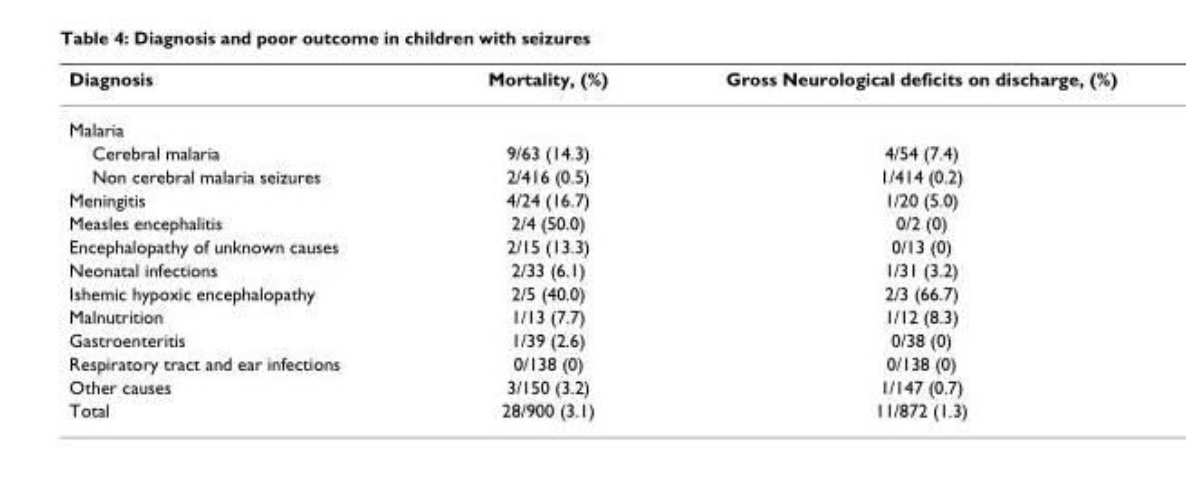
<table><thead><tr><td>Diagnosis</td><td>Mortality, (%)</td><td>Gross Neurological deficits on discharge, (%)</td></tr></thead><tbody><tr><td colspan="3">Malaria</td></tr><tr><td>Cerebral malaria</td><td>9/63 (14.3)</td><td>4/54 (7.4)</td></tr><tr><td>Non cerebral malaria seizures</td><td>2/416 (0.5)</td><td>1/414 (0.2)</td></tr><tr><td>Meningitis</td><td>4/24 (16.7)</td><td>1/20 (5.0)</td></tr><tr><td>Measles encephalitis</td><td>2/4 (50.0)</td><td>0/2 (0)</td></tr><tr><td>Encephalopathy of unknown causes</td><td>2/15 (13.3)</td><td>0/13 (0)</td></tr><tr><td>Neonatal infections</td><td>2/33 (6.1)</td><td>1/31 (3.2)</td></tr><tr><td>Ishemic hypoxic encephalopathy</td><td>2/5 (40.0)</td><td>2/3 (66.7)</td></tr><tr><td>Malnutrition</td><td>1/13 (7.7)</td><td>1/12 (8.3)</td></tr><tr><td>Gastroenteritis</td><td>1/39 (2.6)</td><td>0/38 (0)</td></tr><tr><td>Respiratory tract and ear infections</td><td>0/138 (0)</td><td>0/138 (0)</td></tr><tr><td>Other causes</td><td>3/150 (3.2)</td><td>1/147 (0.7)</td></tr><tr><td>Total</td><td>28/900 (3.1)</td><td>11/872 (1.3)</td></tr></tbody></table>